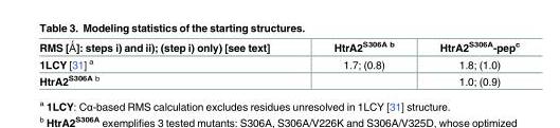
<table><thead><tr><td>RMS [Ǻ]: steps i) and ii); (step i) only) [see text]</td><td>HtrA2<sup>S306A b</sup></td><td>HtrA2<sup>S306A</sup>-pep<sup>c</sup></td></tr></thead><tbody><tr><td>1LCY [31] <sup>a</sup></td><td>1.7; (0.8)</td><td>1.8; (1.0)</td></tr><tr><td>HtrA2<sup>S306A b</sup></td><td></td><td>1.0; (0.9)</td></tr></tbody></table>